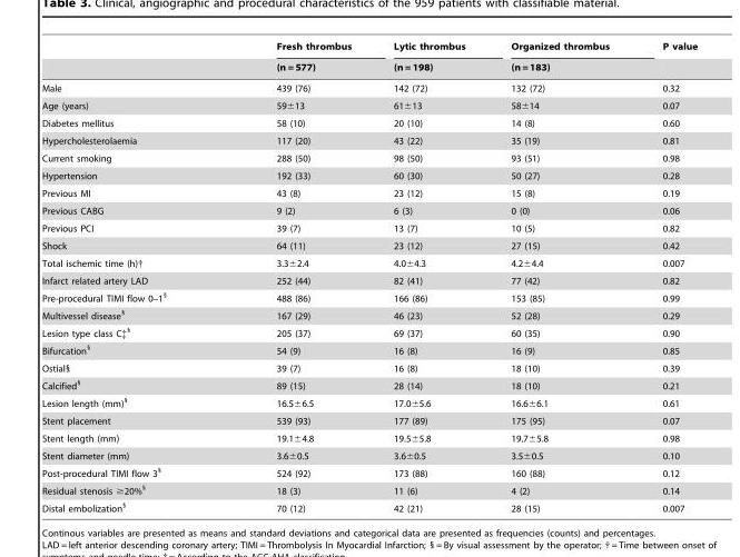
<table><thead><tr><td rowspan="2"></td><td rowspan="2">Fresh thrombus (n = 577)</td><td rowspan="2">Lytic thrombus (n = 198)</td><td rowspan="2">Organized thrombus (n = 183)</td><td rowspan="2">P value</td></tr><tr></tr></thead><tbody><tr><td>Male</td><td>439 (76)</td><td>142 (72)</td><td>132 (72)</td><td>0.32</td></tr><tr><td>Age (years)</td><td>59±13</td><td>61±13</td><td>58±14</td><td>0.07</td></tr><tr><td>Diabetes mellitus</td><td>58 (10)</td><td>20 (10)</td><td>14 (8)</td><td>0.60</td></tr><tr><td>Hypercholesterolaemia</td><td>117 (20)</td><td>43 (22)</td><td>35 (19)</td><td>0.81</td></tr><tr><td>Current smoking</td><td>288 (50)</td><td>98 (50)</td><td>93 (51)</td><td>0.98</td></tr><tr><td>Hypertension</td><td>192 (33)</td><td>60 (30)</td><td>50 (27)</td><td>0.28</td></tr><tr><td>Previous MI</td><td>43 (8)</td><td>23 (12)</td><td>15 (8)</td><td>0.19</td></tr><tr><td>Previous CABG</td><td>9 (2)</td><td>6 (3)</td><td>0 (0)</td><td>0.06</td></tr><tr><td>Previous PCI</td><td>39 (7)</td><td>13 (7)</td><td>10 (5)</td><td>0.82</td></tr><tr><td>Shock</td><td>64 (11)</td><td>23 (12)</td><td>27 (15)</td><td>0.42</td></tr><tr><td>Total ischemic time (h)†</td><td>3.3±2.4</td><td>4.0±4.3</td><td>4.2±4.4</td><td>0.007</td></tr><tr><td>Infarct related artery LAD</td><td>252 (44)</td><td>82 (41)</td><td>77 (42)</td><td>0.82</td></tr><tr><td>Pre-procedural TIMI flow 0–1<sup>§</sup></td><td>488 (86)</td><td>166 (86)</td><td>153 (85)</td><td>0.99</td></tr><tr><td>Multivessel disease<sup>§</sup></td><td>167 (29)</td><td>46 (23)</td><td>52 (28)</td><td>0.29</td></tr><tr><td>Lesion type class C‡<sup>§</sup></td><td>205 (37)</td><td>69 (37)</td><td>60 (35)</td><td>0.90</td></tr><tr><td>Bifurcation<sup>§</sup></td><td>54 (9)</td><td>16 (8)</td><td>16 (9)</td><td>0.85</td></tr><tr><td>Ostial§</td><td>39 (7)</td><td>16 (8)</td><td>18 (10)</td><td>0.39</td></tr><tr><td>Calcified<sup>§</sup></td><td>89 (15)</td><td>28 (14)</td><td>18 (10)</td><td>0.21</td></tr><tr><td>Lesion length (mm)<sup>§</sup></td><td>16.5±6.5</td><td>17.0±5.6</td><td>16.6±6.1</td><td>0.61</td></tr><tr><td>Stent placement</td><td>539 (93)</td><td>177 (89)</td><td>175 (95)</td><td>0.07</td></tr><tr><td>Stent length (mm)</td><td>19.1±4.8</td><td>19.5±5.8</td><td>19.7±5.8</td><td>0.98</td></tr><tr><td>Stent diameter (mm)</td><td>3.6±0.5</td><td>3.6±0.5</td><td>3.5±0.5</td><td>0.10</td></tr><tr><td>Post-procedural TIMI flow 3<sup>§</sup></td><td>524 (92)</td><td>173 (88)</td><td>160 (88)</td><td>0.12</td></tr><tr><td>Residual stenosis ≥20%<sup>§</sup></td><td>18 (3)</td><td>11 (6)</td><td>4 (2)</td><td>0.14</td></tr><tr><td>Distal embolization<sup>§</sup></td><td>70 (12)</td><td>42 (21)</td><td>28 (15)</td><td>0.007</td></tr></tbody></table>